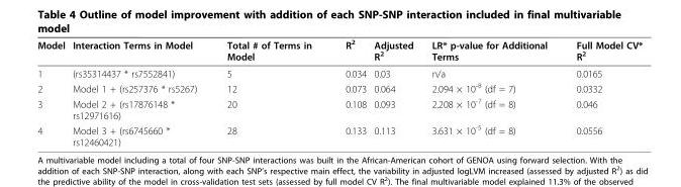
<table><thead><tr><td>Model</td><td>Interaction Terms in Model</td><td>Total # of Terms in Model</td><td>R<sup>2</sup></td><td>Adjusted R<sup>2</sup></td><td>LR* p-value for Additional Terms</td><td>Full Model CV* R<sup>2</sup></td></tr></thead><tbody><tr><td>1</td><td>(rs35314437 * rs7552841)</td><td>5</td><td>0.034</td><td>0.03</td><td>n/a</td><td>0.0165</td></tr><tr><td>2</td><td>Model 1 + (rs257376 * rs5267)</td><td>12</td><td>0.073</td><td>0.064</td><td>2.094 × 10<sup>-8</sup> (df = 7)</td><td>0.0332</td></tr><tr><td>3</td><td>Model 2 + (rs17876148 * rs12971616)</td><td>20</td><td>0.108</td><td>0.093</td><td>2.208 × 10<sup>-7</sup> (df = 8)</td><td>0.046</td></tr><tr><td>4</td><td>Model 3 + (rs6745660 * rs12460421)</td><td>28</td><td>0.133</td><td>0.113</td><td>3.631 × 10<sup>-5</sup> (df = 8)</td><td>0.0556</td></tr></tbody></table>